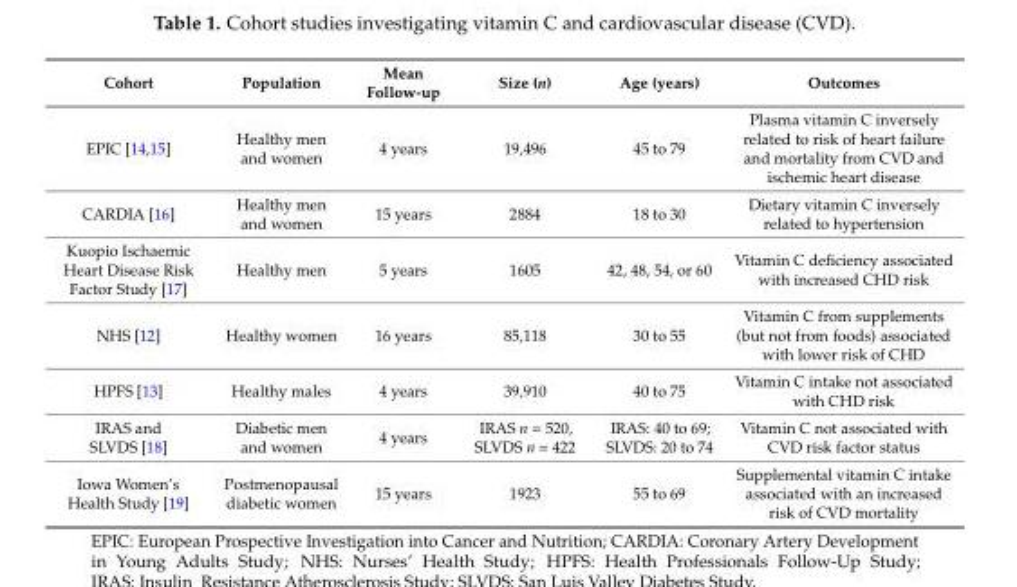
<table><thead><tr><td>Cohort</td><td>Population</td><td>Mean Follow-up</td><td>Size (n)</td><td>Age (years)</td><td>Outcomes</td></tr></thead><tbody><tr><td>EPIC [14,15]</td><td>Healthy men and women</td><td>4 years</td><td>19,496</td><td>45 to 79</td><td>Plasma vitamin C inversely related to risk of heart failure and mortality from CVD and ischemic heart disease</td></tr><tr><td>CARDIA [16]</td><td>Healthy men and women</td><td>15 years</td><td>2884</td><td>18 to 30</td><td>Dietary vitamin C inversely related to hypertension</td></tr><tr><td>Kuopio Ischaemic Heart Disease Risk Factor Study [17]</td><td>Healthy men</td><td>5 years</td><td>1605</td><td>42, 48, 54, or 60</td><td>Vitamin C deficiency associated with increased CHD risk</td></tr><tr><td>NHS [12]</td><td>Healthy women</td><td>16 years</td><td>85,118</td><td>30 to 55</td><td>Vitamin C from supplements (but not from foods) associated with lower risk of CHD</td></tr><tr><td>HPFS [13]</td><td>Healthy males</td><td>4 years</td><td>39,910</td><td>40 to 75</td><td>Vitamin C intake not associated with CHD risk</td></tr><tr><td>IRAS and SLVDS [18]</td><td>Diabetic men and women</td><td>4 years</td><td>IRAS n = 520, SLVDS n = 422</td><td>IRAS: 40 to 69; SLVDS: 20 to 74</td><td>Vitamin C not associated with CVD risk factor status</td></tr><tr><td>Iowa Women’s Health Study [19]</td><td>Postmenopausal diabetic women</td><td>15 years</td><td>1923</td><td>55 to 69</td><td>Supplemental vitamin C intake associated with an increased risk of CVD mortality</td></tr></tbody></table>